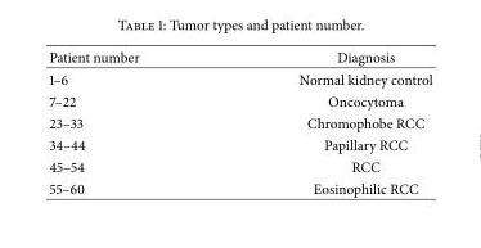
<table><thead><tr><td>Patient number</td><td>Diagnosis</td></tr></thead><tbody><tr><td>1–6</td><td>Normal kidney control</td></tr><tr><td>7–22</td><td>Oncocytoma</td></tr><tr><td>23–33</td><td>Chromophobe RCC</td></tr><tr><td>34–44</td><td>Papillary RCC</td></tr><tr><td>45–54</td><td>RCC</td></tr><tr><td>55–60</td><td>Eosinophilic RCC</td></tr></tbody></table>